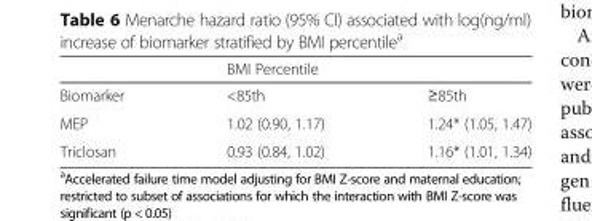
<table><thead><tr><td rowspan="2">Biomarker</td><td colspan="2">BMI Percentile</td></tr><tr><td>&lt;85th</td><td>≥85th</td></tr></thead><tbody><tr><td>MEP</td><td>1.02 (0.90, 1.17)</td><td>1.24* (1.05, 1.47)</td></tr><tr><td>Triclosan</td><td>0.93 (0.84, 1.02)</td><td>1.16* (1.01, 1.34)</td></tr></tbody></table>